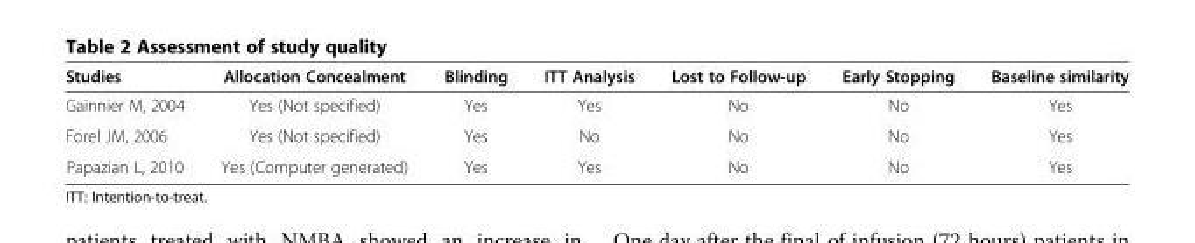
<table><thead><tr><td>Studies</td><td>Allocation Concealment</td><td>Blinding</td><td>ITT Analysis</td><td>Lost to Follow-up</td><td>Early Stopping</td><td>Baseline similarity</td></tr></thead><tbody><tr><td>Gainnier M, 2004</td><td>Yes (Not specified)</td><td>Yes</td><td>Yes</td><td>No</td><td>No</td><td>Yes</td></tr><tr><td>Forel JM, 2006</td><td>Yes (Not specified)</td><td>Yes</td><td>No</td><td>No</td><td>No</td><td>Yes</td></tr><tr><td>Papazian L, 2010</td><td>Yes (Computer generated)</td><td>Yes</td><td>Yes</td><td>No</td><td>No</td><td>Yes</td></tr></tbody></table>